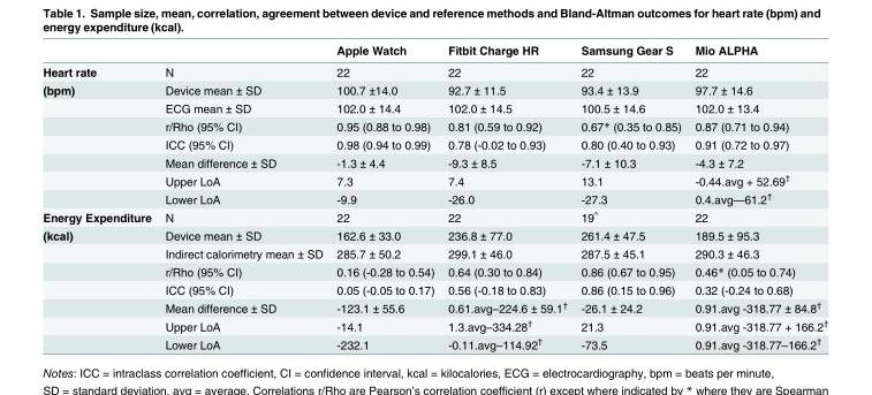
<table><thead><tr><td></td><td></td><td>Apple Watch</td><td>Fitbit Charge HR</td><td>Samsung Gear S</td><td>Mio ALPHA</td></tr></thead><tbody><tr><td>Heart rate</td><td>N</td><td>22</td><td>22</td><td>22</td><td>22</td></tr><tr><td rowspan="7">(bpm)</td><td>Device mean ± SD</td><td>100.7 ±14.0</td><td>92.7 ± 11.5</td><td>93.4 ± 13.9</td><td>97.7 ± 14.6</td></tr><tr><td>ECG mean ± SD</td><td>102.0 ± 14.4</td><td>102.0 ± 14.5</td><td>100.5 ± 14.6</td><td>102.0 ± 13.4</td></tr><tr><td>r/Rho (95% CI)</td><td>0.95 (0.88 to 0.98)</td><td>0.81 (0.59 to 0.92)</td><td>0.67* (0.35 to 0.85)</td><td>0.87 (0.71 to 0.94)</td></tr><tr><td>ICC (95% CI)</td><td>0.98 (0.94 to 0.99)</td><td>0.78 (-0.02 to 0.93)</td><td>0.80 (0.40 to 0.93)</td><td>0.91 (0.72 to 0.97)</td></tr><tr><td>Mean difference ± SD</td><td>-1.3 ± 4.4</td><td>-9.3 ± 8.5</td><td>-7.1 ± 10.3</td><td>-4.3 ± 7.2</td></tr><tr><td>Upper LoA</td><td>7.3</td><td>7.4</td><td>13.1</td><td>-0.44.avg + 52.69<sup>†</sup></td></tr><tr><td>Lower LoA</td><td>-9.9</td><td>-26.0</td><td>-27.3</td><td>0.4.avg—61.2<sup>†</sup></td></tr><tr><td>Energy Expenditure</td><td>N</td><td>22</td><td>22</td><td>19<sup>⌃</sup></td><td>22</td></tr><tr><td rowspan="7">(kcal)</td><td>Device mean ± SD</td><td>162.6 ± 33.0</td><td>236.8 ± 77.0</td><td>261.4 ± 47.5</td><td>189.5 ± 95.3</td></tr><tr><td>Indirect calorimetry mean ± SD</td><td>285.7 ± 50.2</td><td>299.1 ± 46.0</td><td>287.5 ± 45.1</td><td>290.3 ± 46.3</td></tr><tr><td>r/Rho (95% CI)</td><td>0.16 (-0.28 to 0.54)</td><td>0.64 (0.30 to 0.84)</td><td>0.86 (0.67 to 0.95)</td><td>0.46* (0.05 to 0.74)</td></tr><tr><td>ICC (95% CI)</td><td>0.05 (-0.05 to 0.17)</td><td>0.56 (-0.18 to 0.83)</td><td>0.86 (0.15 to 0.96)</td><td>0.32 (-0.24 to 0.68)</td></tr><tr><td>Mean difference ± SD</td><td>-123.1 ± 55.6</td><td>0.61.avg–224.6 ± 59.1<sup>†</sup></td><td>-26.1 ± 24.2</td><td>0.91.avg -318.77 ± 84.8<sup>†</sup></td></tr><tr><td>Upper LoA</td><td>-14.1</td><td>1.3.avg–334.28<sup>†</sup></td><td>21.3</td><td>0.91.avg -318.77 + 166.2<sup>†</sup></td></tr><tr><td>Lower LoA</td><td>-232.1</td><td>-0.11.avg–114.92<sup>†</sup></td><td>-73.5</td><td>0.91.avg -318.77–166.2<sup>†</sup></td></tr></tbody></table>